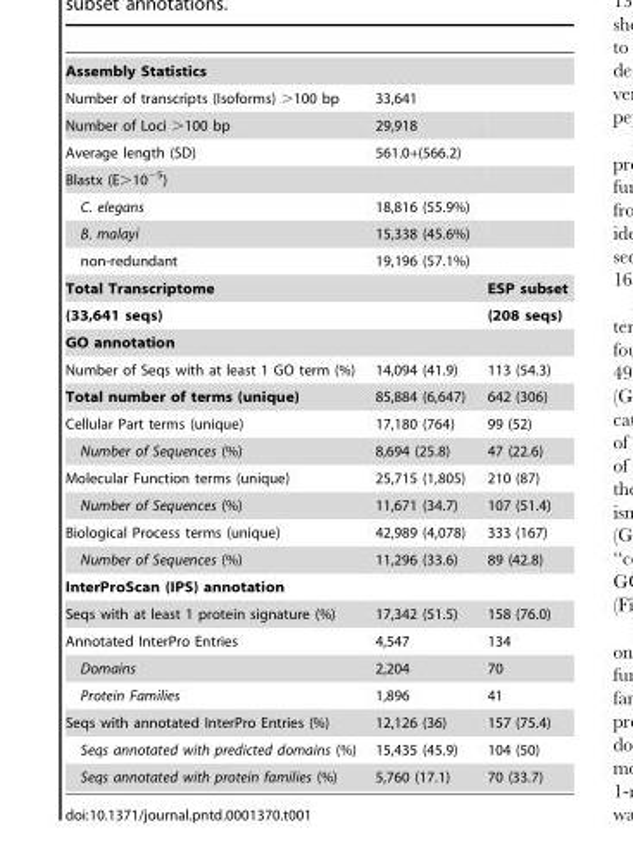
<table><tbody><tr><td colspan="3">Assembly Statistics</td></tr><tr><td>Number of transcripts (Isoforms) &gt;100 bp</td><td>33,641</td><td></td></tr><tr><td>Number of Loci &gt;100 bp</td><td>29,918</td><td></td></tr><tr><td>Average length (SD)</td><td>561.0+(566.2)</td><td></td></tr><tr><td colspan="3">Blastx (E&gt;10<sup>−5</sup>)</td></tr><tr><td>C. elegans</td><td>18,816 (55.9%)</td><td></td></tr><tr><td>B. malayi</td><td>15,338 (45.6%)</td><td></td></tr><tr><td>non-redundant</td><td>19,196 (57.1%)</td><td></td></tr><tr><td colspan="2">Total Transcriptome</td><td>ESP subset</td></tr><tr><td colspan="2">(33,641 seqs)</td><td>(208 seqs)</td></tr><tr><td colspan="3">GO annotation</td></tr><tr><td>Number of Seqs with at least 1 GO term (%)</td><td>14,094 (41.9)</td><td>113 (54.3)</td></tr><tr><td>Total number of terms (unique)</td><td>85,884 (6,647)</td><td>642 (306)</td></tr><tr><td>Cellular Part terms (unique)</td><td>17,180 (764)</td><td>99 (52)</td></tr><tr><td>Number of Sequences (%)</td><td>8,694 (25.8)</td><td>47 (22.6)</td></tr><tr><td>Molecular Function terms (unique)</td><td>25,715 (1,805)</td><td>210 (87)</td></tr><tr><td>Number of Sequences (%)</td><td>11,671 (34.7)</td><td>107 (51.4)</td></tr><tr><td>Biological Process terms (unique)</td><td>42,989 (4,078)</td><td>333 (167)</td></tr><tr><td>Number of Sequences (%)</td><td>11,296 (33.6)</td><td>89 (42.8)</td></tr><tr><td colspan="3">InterProScan (IPS) annotation</td></tr><tr><td>Seqs with at least 1 protein signature (%)</td><td>17,342 (51.5)</td><td>158 (76.0)</td></tr><tr><td>Annotated InterPro Entries</td><td>4,547</td><td>134</td></tr><tr><td>Domains</td><td>2,204</td><td>70</td></tr><tr><td>Protein Families</td><td>1,896</td><td>41</td></tr><tr><td>Seqs with annotated InterPro Entries (%)</td><td>12,126 (36)</td><td>157 (75.4)</td></tr><tr><td>Seqs annotated with predicted domains (%)</td><td>15,435 (45.9)</td><td>104 (50)</td></tr><tr><td>Seqs annotated with protein families (%)</td><td>5,760 (17.1)</td><td>70 (33.7)</td></tr></tbody></table>